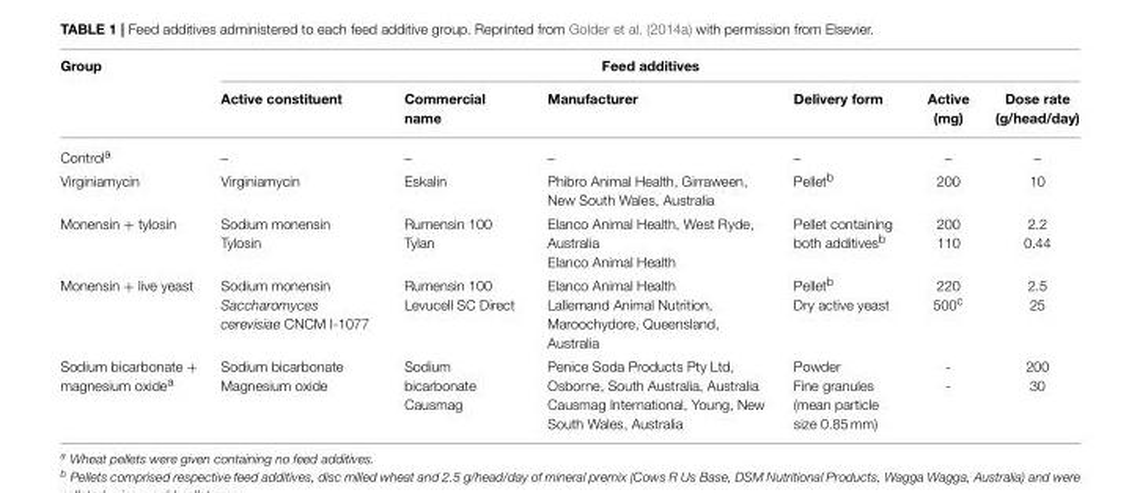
<table><thead><tr><td rowspan="2">Group</td><td colspan="6">Feed additives</td></tr><tr><td>Active constituent</td><td>Commercial name</td><td>Manufacturer</td><td>Delivery form</td><td>Active (mg)</td><td>Dose rate (g/head/day)</td></tr></thead><tbody><tr><td>Control<sup>a</sup></td><td>–</td><td>–</td><td>–</td><td>–</td><td>–</td><td>–</td></tr><tr><td>Virginiamycin</td><td>Virginiamycin</td><td>Eskalin</td><td>Phibro Animal Health, Girraween, New South Wales, Australia</td><td>Pellet<sup>b</sup></td><td>200</td><td>10</td></tr><tr><td>Monensin + tylosin</td><td>Sodium monensin Tylosin</td><td>Rumensin 100 Tylan</td><td>Elanco Animal Health, West Ryde, Australia Elanco Animal Health</td><td>Pellet containing both additives<sup>b</sup></td><td>200 110</td><td>2.2 0.44</td></tr><tr><td>Monensin + live yeast</td><td>Sodium monensin Saccharomyces cerevisiae CNCM I-1077</td><td>Rumensin 100 Levucell SC Direct</td><td>Elanco Animal Health Lallemand Animal Nutrition, Maroochydore, Queensland, Australia</td><td>Pellet<sup>b</sup> Dry active yeast</td><td>220 500<sup>c</sup></td><td>2.5 25</td></tr><tr><td>Sodium bicarbonate + magnesium oxide<sup>a</sup></td><td>Sodium bicarbonate Magnesium oxide</td><td>Sodium bicarbonate Causmag</td><td>Penice Soda Products Pty Ltd, Osborne, South Australia, Australia Causmag International, Young, New South Wales, Australia</td><td>Powder Fine granules (mean particle size 0.85 mm)</td><td>- -</td><td>200 30</td></tr></tbody></table>